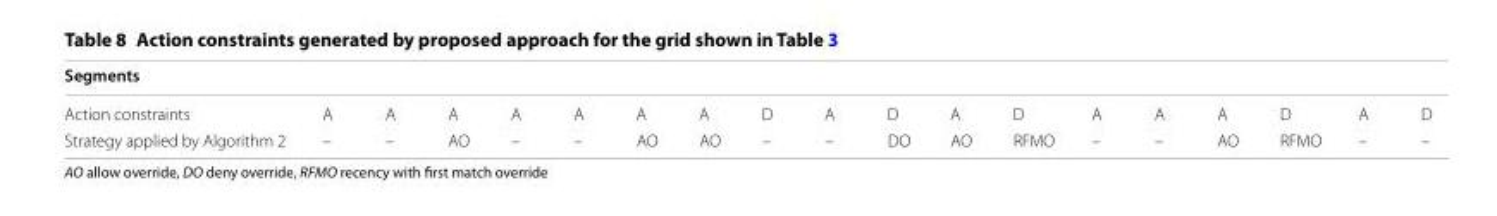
<table><thead><tr><td>Segments</td><td></td><td></td><td></td><td></td><td></td><td></td><td></td><td></td><td></td><td></td><td></td><td></td><td></td><td></td><td></td><td></td><td></td><td></td></tr></thead><tbody><tr><td>Action constraints</td><td>A</td><td>A</td><td>A</td><td>A</td><td>A</td><td>A</td><td>A</td><td>D</td><td>A</td><td>D</td><td>A</td><td>D</td><td>A</td><td>A</td><td>A</td><td>D</td><td>A</td><td>D</td></tr><tr><td>Strategy applied by Algorithm 2</td><td>–</td><td>–</td><td>AO</td><td>–</td><td>–</td><td>AO</td><td>AO</td><td>–</td><td>–</td><td>DO</td><td>AO</td><td>RFMO</td><td>–</td><td>–</td><td>AO</td><td>RFMO</td><td>–</td><td>–</td></tr></tbody></table>